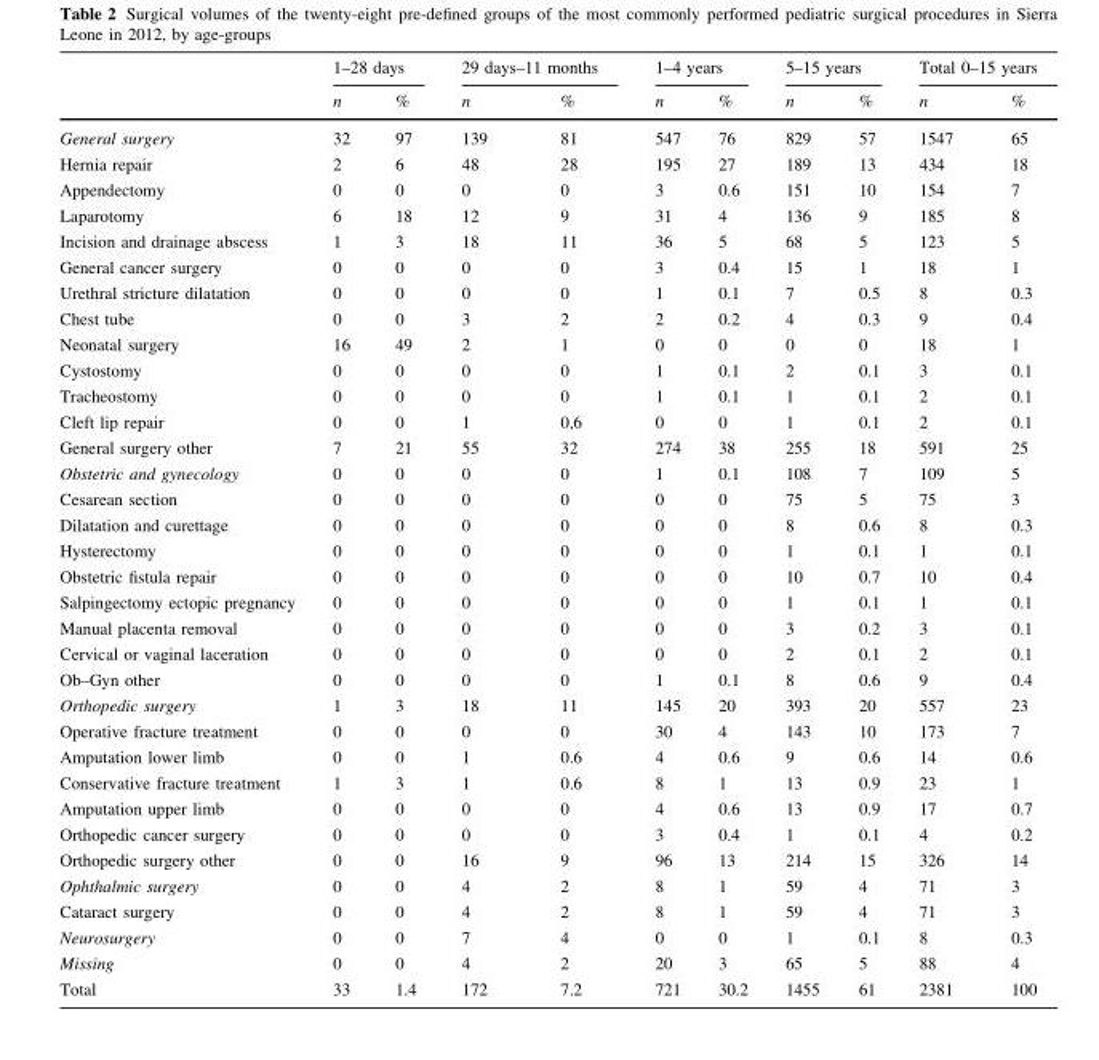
<table><thead><tr><td rowspan="2"></td><td colspan="2">1–28 days</td><td colspan="2">29 days–11 months</td><td colspan="2">1–4 years</td><td colspan="2">5–15 years</td><td colspan="2">Total 0–15 years</td></tr><tr><td>n</td><td>%</td><td>n</td><td>%</td><td>n</td><td>%</td><td>n</td><td>%</td><td>n</td><td>%</td></tr></thead><tbody><tr><td>General surgery</td><td>32</td><td>97</td><td>139</td><td>81</td><td>547</td><td>76</td><td>829</td><td>57</td><td>1547</td><td>65</td></tr><tr><td>Hernia repair</td><td>2</td><td>6</td><td>48</td><td>28</td><td>195</td><td>27</td><td>189</td><td>13</td><td>434</td><td>18</td></tr><tr><td>Appendectomy</td><td>0</td><td>0</td><td>0</td><td>0</td><td>3</td><td>0.6</td><td>151</td><td>10</td><td>154</td><td>7</td></tr><tr><td>Laparotomy</td><td>6</td><td>18</td><td>12</td><td>9</td><td>31</td><td>4</td><td>136</td><td>9</td><td>185</td><td>8</td></tr><tr><td>Incision and drainage abscess</td><td>1</td><td>3</td><td>18</td><td>11</td><td>36</td><td>5</td><td>68</td><td>5</td><td>123</td><td>5</td></tr><tr><td>General cancer surgery</td><td>0</td><td>0</td><td>0</td><td>0</td><td>3</td><td>0.4</td><td>15</td><td>1</td><td>18</td><td>1</td></tr><tr><td>Urethral stricture dilatation</td><td>0</td><td>0</td><td>0</td><td>0</td><td>1</td><td>0.1</td><td>7</td><td>0.5</td><td>8</td><td>0.3</td></tr><tr><td>Chest tube</td><td>0</td><td>0</td><td>3</td><td>2</td><td>2</td><td>0.2</td><td>4</td><td>0.3</td><td>9</td><td>0.4</td></tr><tr><td>Neonatal surgery</td><td>16</td><td>49</td><td>2</td><td>1</td><td>0</td><td>0</td><td>0</td><td>0</td><td>18</td><td>1</td></tr><tr><td>Cystostomy</td><td>0</td><td>0</td><td>0</td><td>0</td><td>1</td><td>0.1</td><td>2</td><td>0.1</td><td>3</td><td>0.1</td></tr><tr><td>Tracheostomy</td><td>0</td><td>0</td><td>0</td><td>0</td><td>1</td><td>0.1</td><td>1</td><td>0.1</td><td>2</td><td>0.1</td></tr><tr><td>Cleft lip repair</td><td>0</td><td>0</td><td>1</td><td>0,6</td><td>0</td><td>0</td><td>1</td><td>0.1</td><td>2</td><td>0.1</td></tr><tr><td>General surgery other</td><td>7</td><td>21</td><td>55</td><td>32</td><td>274</td><td>38</td><td>255</td><td>18</td><td>591</td><td>25</td></tr><tr><td>Obstetric and gynecology</td><td>0</td><td>0</td><td>0</td><td>0</td><td>1</td><td>0.1</td><td>108</td><td>7</td><td>109</td><td>5</td></tr><tr><td>Cesarean section</td><td>0</td><td>0</td><td>0</td><td>0</td><td>0</td><td>0</td><td>75</td><td>5</td><td>75</td><td>3</td></tr><tr><td>Dilatation and curettage</td><td>0</td><td>0</td><td>0</td><td>0</td><td>0</td><td>0</td><td>8</td><td>0.6</td><td>8</td><td>0.3</td></tr><tr><td>Hysterectomy</td><td>0</td><td>0</td><td>0</td><td>0</td><td>0</td><td>0</td><td>1</td><td>0.1</td><td>1</td><td>0.1</td></tr><tr><td>Obstetric fistula repair</td><td>0</td><td>0</td><td>0</td><td>0</td><td>0</td><td>0</td><td>10</td><td>0.7</td><td>10</td><td>0.4</td></tr><tr><td>Salpingectomy ectopic pregnancy</td><td>0</td><td>0</td><td>0</td><td>0</td><td>0</td><td>0</td><td>1</td><td>0.1</td><td>1</td><td>0.1</td></tr><tr><td>Manual placenta removal</td><td>0</td><td>0</td><td>0</td><td>0</td><td>0</td><td>0</td><td>3</td><td>0.2</td><td>3</td><td>0.1</td></tr><tr><td>Cervical or vaginal laceration</td><td>0</td><td>0</td><td>0</td><td>0</td><td>0</td><td>0</td><td>2</td><td>0.1</td><td>2</td><td>0.1</td></tr><tr><td>Ob–Gyn other</td><td>0</td><td>0</td><td>0</td><td>0</td><td>1</td><td>0.1</td><td>8</td><td>0.6</td><td>9</td><td>0.4</td></tr><tr><td>Orthopedic surgery</td><td>1</td><td>3</td><td>18</td><td>11</td><td>145</td><td>20</td><td>393</td><td>20</td><td>557</td><td>23</td></tr><tr><td>Operative fracture treatment</td><td>0</td><td>0</td><td>0</td><td>0</td><td>30</td><td>4</td><td>143</td><td>10</td><td>173</td><td>7</td></tr><tr><td>Amputation lower limb</td><td>0</td><td>0</td><td>1</td><td>0.6</td><td>4</td><td>0.6</td><td>9</td><td>0.6</td><td>14</td><td>0.6</td></tr><tr><td>Conservative fracture treatment</td><td>1</td><td>3</td><td>1</td><td>0.6</td><td>8</td><td>1</td><td>13</td><td>0.9</td><td>23</td><td>1</td></tr><tr><td>Amputation upper limb</td><td>0</td><td>0</td><td>0</td><td>0</td><td>4</td><td>0.6</td><td>13</td><td>0.9</td><td>17</td><td>0.7</td></tr><tr><td>Orthopedic cancer surgery</td><td>0</td><td>0</td><td>0</td><td>0</td><td>3</td><td>0.4</td><td>1</td><td>0.1</td><td>4</td><td>0.2</td></tr><tr><td>Orthopedic surgery other</td><td>0</td><td>0</td><td>16</td><td>9</td><td>96</td><td>13</td><td>214</td><td>15</td><td>326</td><td>14</td></tr><tr><td>Ophthalmic surgery</td><td>0</td><td>0</td><td>4</td><td>2</td><td>8</td><td>1</td><td>59</td><td>4</td><td>71</td><td>3</td></tr><tr><td>Cataract surgery</td><td>0</td><td>0</td><td>4</td><td>2</td><td>8</td><td>1</td><td>59</td><td>4</td><td>71</td><td>3</td></tr><tr><td>Neurosurgery</td><td>0</td><td>0</td><td>7</td><td>4</td><td>0</td><td>0</td><td>1</td><td>0.1</td><td>8</td><td>0.3</td></tr><tr><td>Missing</td><td>0</td><td>0</td><td>4</td><td>2</td><td>20</td><td>3</td><td>65</td><td>5</td><td>88</td><td>4</td></tr><tr><td>Total</td><td>33</td><td>1.4</td><td>172</td><td>7.2</td><td>721</td><td>30.2</td><td>1455</td><td>61</td><td>2381</td><td>100</td></tr></tbody></table>